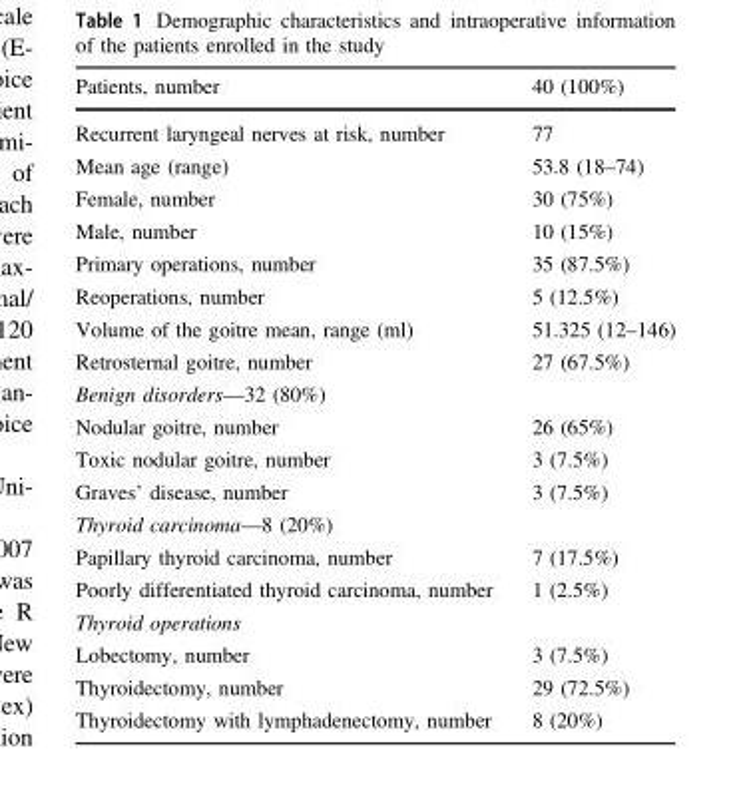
<table><thead><tr><td>Patients, number</td><td>40 (100%)</td></tr></thead><tbody><tr><td>Recurrent laryngeal nerves at risk, number</td><td>77</td></tr><tr><td>Mean age (range)</td><td>53.8 (18–74)</td></tr><tr><td>Female, number</td><td>30 (75%)</td></tr><tr><td>Male, number</td><td>10 (15%)</td></tr><tr><td>Primary operations, number</td><td>35 (87.5%)</td></tr><tr><td>Reoperations, number</td><td>5 (12.5%)</td></tr><tr><td>Volume of the goitre mean, range (ml)</td><td>51.325 (12–146)</td></tr><tr><td>Retrosternal goitre, number</td><td>27 (67.5%)</td></tr><tr><td colspan="2">Benign disorders—32 (80%)</td></tr><tr><td>Nodular goitre, number</td><td>26 (65%)</td></tr><tr><td>Toxic nodular goitre, number</td><td>3 (7.5%)</td></tr><tr><td>Graves’ disease, number</td><td>3 (7.5%)</td></tr><tr><td colspan="2">Thyroid carcinoma—8 (20%)</td></tr><tr><td>Papillary thyroid carcinoma, number</td><td>7 (17.5%)</td></tr><tr><td>Poorly differentiated thyroid carcinoma, number</td><td>1 (2.5%)</td></tr><tr><td colspan="2">Thyroid operations</td></tr><tr><td>Lobectomy, number</td><td>3 (7.5%)</td></tr><tr><td>Thyroidectomy, number</td><td>29 (72.5%)</td></tr><tr><td>Thyroidectomy with lymphadenectomy, number</td><td>8 (20%)</td></tr></tbody></table>